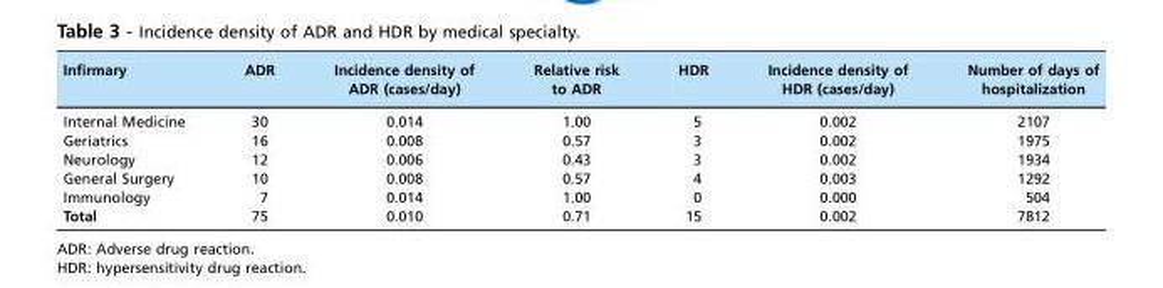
<table><thead><tr><td>Infirmary</td><td>ADR</td><td>Incidence density of ADR (cases/day)</td><td>Relative risk to ADR</td><td>HDR</td><td>Incidence density of HDR (cases/day)</td><td>Number of days of hospitalization</td></tr></thead><tbody><tr><td>Internal Medicine</td><td>30</td><td>0.014</td><td>1.00</td><td>5</td><td>0.002</td><td>2107</td></tr><tr><td>Geriatrics</td><td>16</td><td>0.008</td><td>0.57</td><td>3</td><td>0.002</td><td>1975</td></tr><tr><td>Neurology</td><td>12</td><td>0.006</td><td>0.43</td><td>3</td><td>0.002</td><td>1934</td></tr><tr><td>General Surgery</td><td>10</td><td>0.008</td><td>0.57</td><td>4</td><td>0.003</td><td>1292</td></tr><tr><td>Immunology</td><td>7</td><td>0.014</td><td>1.00</td><td>0</td><td>0.000</td><td>504</td></tr><tr><td>Total</td><td>75</td><td>0.010</td><td>0.71</td><td>15</td><td>0.002</td><td>7812</td></tr></tbody></table>